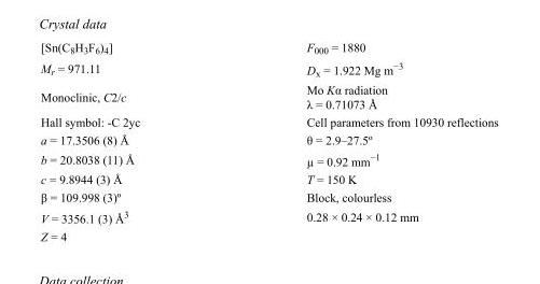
<table><tbody><tr><td>[Sn(C<sub>8</sub>H<sub>3</sub>F<sub>6</sub>)<sub>4</sub>]</td><td>F000 = 1880</td></tr><tr><td>M<sub>r</sub> = 971.11</td><td>D<sub>x</sub> = 1.922 Mg m<sup>−3</sup></td></tr><tr><td>Monoclinic, C2/c</td><td>Mo Kα radiation λ = 0.71073 Å</td></tr><tr><td>Hall symbol: -C 2yc</td><td>Cell parameters from 10930 reflections</td></tr><tr><td>a = 17.3506 (8) Å</td><td>θ = 2.9–27.5º</td></tr><tr><td>b = 20.8038 (11) Å</td><td>µ = 0.92 mm<sup>−1</sup></td></tr><tr><td>c = 9.8944 (3) Å</td><td>T = 150 K</td></tr><tr><td>β = 109.998 (3)º</td><td>Block, colourless</td></tr><tr><td>V = 3356.1 (3) Å<sup>3</sup></td><td>0.28 × 0.24 × 0.12 mm</td></tr><tr><td>Z = 4</td><td></td></tr></tbody></table>